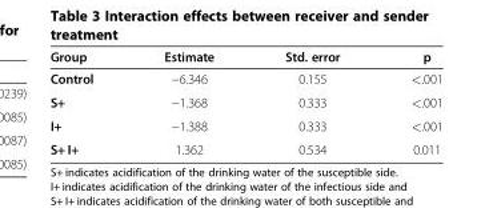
<table><thead><tr><td>Group</td><td>Estimate</td><td>Std. error</td><td>p</td></tr></thead><tbody><tr><td>Control</td><td>−6.346</td><td>0.155</td><td>&lt;.001</td></tr><tr><td>S+</td><td>−1.368</td><td>0.333</td><td>&lt;.001</td></tr><tr><td>I+</td><td>−1.388</td><td>0.333</td><td>&lt;.001</td></tr><tr><td>S+ I+</td><td>1.362</td><td>0.534</td><td>0.011</td></tr></tbody></table>